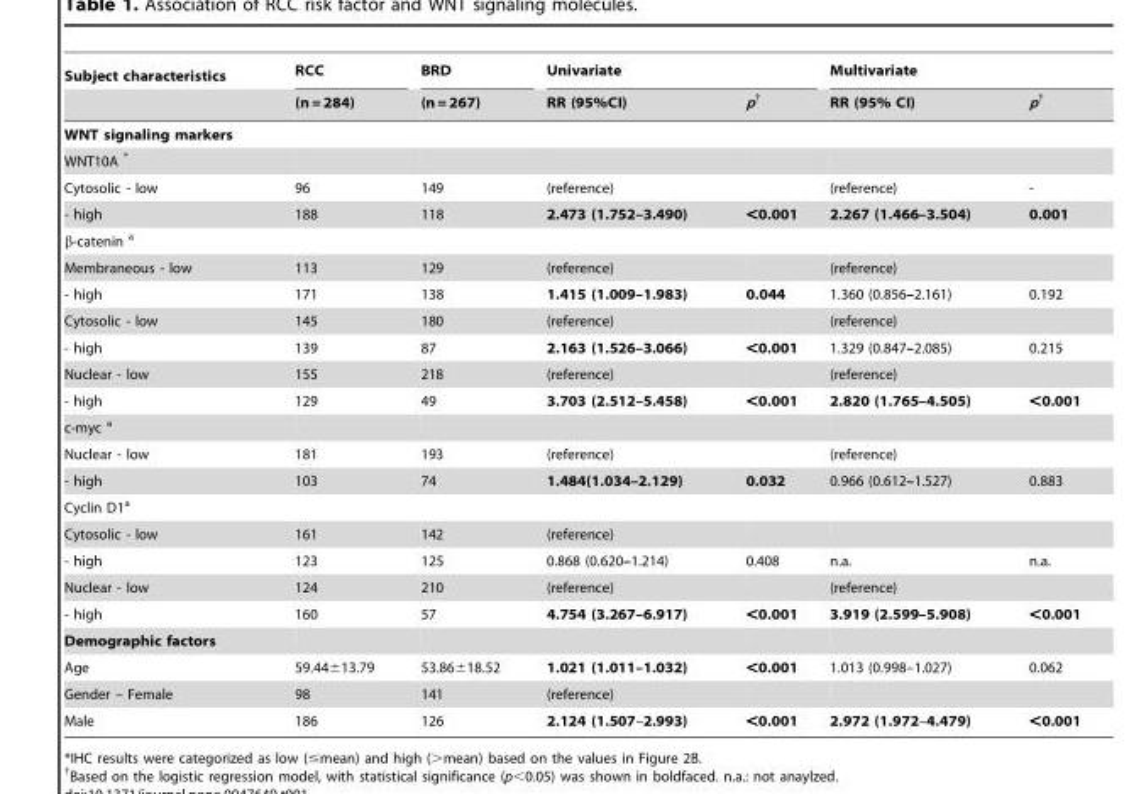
<table><thead><tr><td rowspan="2">Subject characteristics</td><td rowspan="2">RCC (n = 284)</td><td rowspan="2">BRD (n = 267)</td><td colspan="2">Univariate</td><td colspan="2">Multivariate</td></tr><tr><td>RR (95%CI)</td><td>p†</td><td>RR (95% CI)</td><td>p†</td></tr></thead><tbody><tr><td colspan="7">WNT signaling markers</td></tr><tr><td colspan="7">WNT10A *</td></tr><tr><td>Cytosolic - low</td><td>96</td><td>149</td><td>(reference)</td><td></td><td>(reference)</td><td>-</td></tr><tr><td>- high</td><td>188</td><td>118</td><td>2.473 (1.752–3.490)</td><td>&lt;0.001</td><td>2.267 (1.466–3.504)</td><td>0.001</td></tr><tr><td colspan="7">β-catenin <sup>a</sup></td></tr><tr><td>Membraneous - low</td><td>113</td><td>129</td><td>(reference)</td><td></td><td>(reference)</td><td></td></tr><tr><td>- high</td><td>171</td><td>138</td><td>1.415 (1.009–1.983)</td><td>0.044</td><td>1.360 (0.856–2.161)</td><td>0.192</td></tr><tr><td>Cytosolic - low</td><td>145</td><td>180</td><td>(reference)</td><td></td><td>(reference)</td><td></td></tr><tr><td>- high</td><td>139</td><td>87</td><td>2.163 (1.526–3.066)</td><td>&lt;0.001</td><td>1.329 (0.847–2.085)</td><td>0.215</td></tr><tr><td>Nuclear - low</td><td>155</td><td>218</td><td>(reference)</td><td></td><td>(reference)</td><td></td></tr><tr><td>- high</td><td>129</td><td>49</td><td>3.703 (2.512–5.458)</td><td>&lt;0.001</td><td>2.820 (1.765–4.505)</td><td>&lt;0.001</td></tr><tr><td colspan="7">c-myc <sup>a</sup></td></tr><tr><td>Nuclear - low</td><td>181</td><td>193</td><td>(reference)</td><td></td><td>(reference)</td><td></td></tr><tr><td>- high</td><td>103</td><td>74</td><td>1.484(1.034–2.129)</td><td>0.032</td><td>0.966 (0.612–1.527)</td><td>0.883</td></tr><tr><td colspan="7">Cyclin D1<sup>a</sup></td></tr><tr><td>Cytosolic - low</td><td>161</td><td>142</td><td>(reference)</td><td></td><td></td><td></td></tr><tr><td>- high</td><td>123</td><td>125</td><td>0.868 (0.620–1.214)</td><td>0.408</td><td>n.a.</td><td>n.a.</td></tr><tr><td>Nuclear - low</td><td>124</td><td>210</td><td>(reference)</td><td></td><td>(reference)</td><td></td></tr><tr><td>- high</td><td>160</td><td>57</td><td>4.754 (3.267–6.917)</td><td>&lt;0.001</td><td>3.919 (2.599–5.908)</td><td>&lt;0.001</td></tr><tr><td colspan="7">Demographic factors</td></tr><tr><td>Age</td><td>59.44±13.79</td><td>53.86±18.52</td><td>1.021 (1.011–1.032)</td><td>&lt;0.001</td><td>1.013 (0.998–1.027)</td><td>0.062</td></tr><tr><td>Gender – Female</td><td>98</td><td>141</td><td>(reference)</td><td></td><td></td><td></td></tr><tr><td>Male</td><td>186</td><td>126</td><td>2.124 (1.507–2.993)</td><td>&lt;0.001</td><td>2.972 (1.972–4.479)</td><td>&lt;0.001</td></tr></tbody></table>